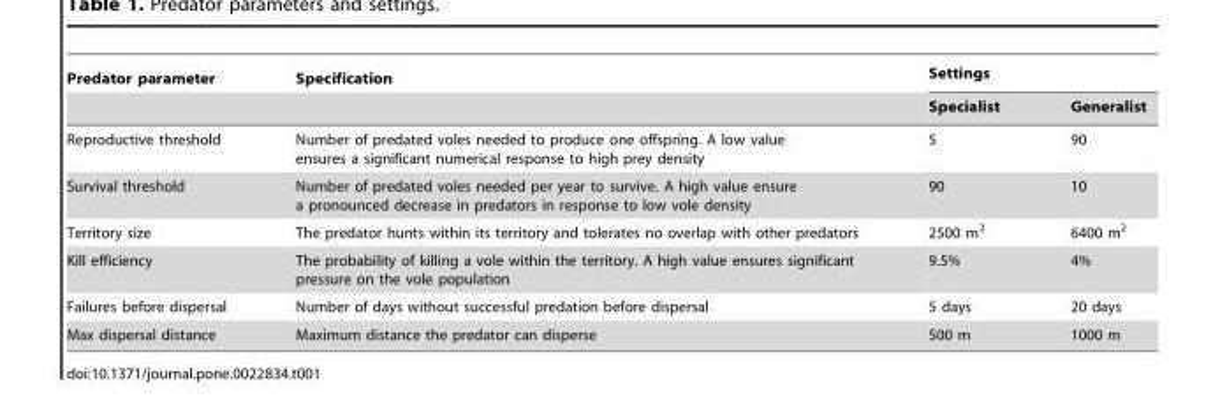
<table><thead><tr><td rowspan="2">Predator parameter</td><td rowspan="2">Specification</td><td colspan="2">Settings</td></tr><tr><td>Specialist</td><td>Generalist</td></tr></thead><tbody><tr><td>Reproductive threshold</td><td>Number of predated voles needed to produce one offspring. A low value ensures a significant numerical response to high prey density</td><td>5</td><td>90</td></tr><tr><td>Survival threshold</td><td>Number of predated voles needed per year to survive. A high value ensure a pronounced decrease in predators in response to low vole density</td><td>90</td><td>10</td></tr><tr><td>Territory size</td><td>The predator hunts within its territory and tolerates no overlap with other predators</td><td>2500 m<sup>2</sup></td><td>6400 m<sup>2</sup></td></tr><tr><td>Kill efficiency</td><td>The probability of killing a vole within the territory. A high value ensures significant pressure on the vole population</td><td>9.5%</td><td>4%</td></tr><tr><td>Failures before dispersal</td><td>Number of days without successful predation before dispersal</td><td>5 days</td><td>20 days</td></tr><tr><td>Max dispersal distance</td><td>Maximum distance the predator can disperse</td><td>500 m</td><td>1000 m</td></tr></tbody></table>